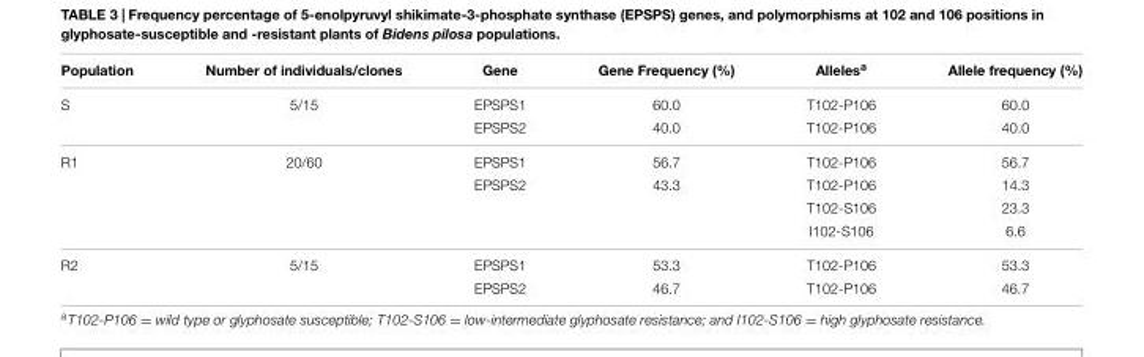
<table><thead><tr><td>Population</td><td>Number of individuals/clones</td><td>Gene</td><td>Gene Frequency (%)</td><td>Alleles<sup>a</sup></td><td>Allele frequency (%)</td></tr></thead><tbody><tr><td rowspan="2">S</td><td>5/15</td><td>EPSPS1</td><td>60.0</td><td>T102-P106</td><td>60.0</td></tr><tr><td></td><td>EPSPS2</td><td>40.0</td><td>T102-P106</td><td>40.0</td></tr><tr><td rowspan="4">R1</td><td>20/60</td><td>EPSPS1</td><td>56.7</td><td>T102-P106</td><td>56.7</td></tr><tr><td></td><td>EPSPS2</td><td>43.3</td><td>T102-P106</td><td>14.3</td></tr><tr><td></td><td></td><td></td><td>T102-S106</td><td>23.3</td></tr><tr><td></td><td></td><td></td><td>I102-S106</td><td>6.6</td></tr><tr><td rowspan="2">R2</td><td>5/15</td><td>EPSPS1</td><td>53.3</td><td>T102-P106</td><td>53.3</td></tr><tr><td></td><td>EPSPS2</td><td>46.7</td><td>T102-P106</td><td>46.7</td></tr></tbody></table>